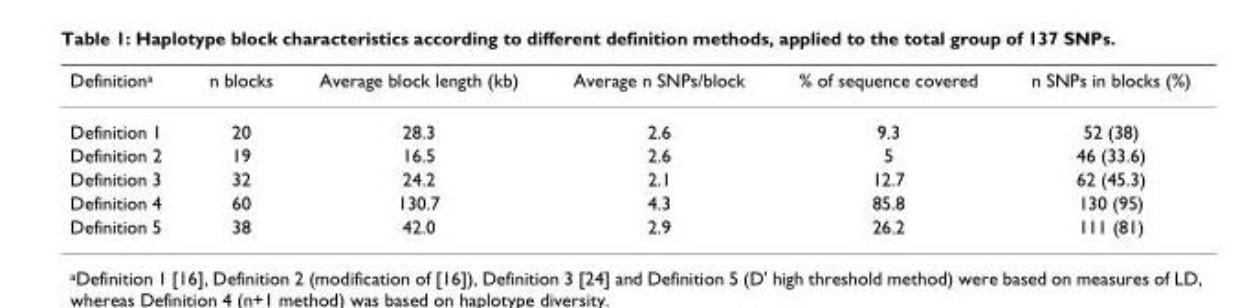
<table><thead><tr><td>Definition<sup>a</sup></td><td>n blocks</td><td>Average block length (kb)</td><td>Average n SNPs/block</td><td>% of sequence covered</td><td>n SNPs in blocks (%)</td></tr></thead><tbody><tr><td>Definition 1</td><td>20</td><td>28.3</td><td>2.6</td><td>9.3</td><td>52 (38)</td></tr><tr><td>Definition 2</td><td>19</td><td>16.5</td><td>2.6</td><td>5</td><td>46 (33.6)</td></tr><tr><td>Definition 3</td><td>32</td><td>24.2</td><td>2.1</td><td>12.7</td><td>62 (45.3)</td></tr><tr><td>Definition 4</td><td>60</td><td>130.7</td><td>4.3</td><td>85.8</td><td>130 (95)</td></tr><tr><td>Definition 5</td><td>38</td><td>42.0</td><td>2.9</td><td>26.2</td><td>111 (81)</td></tr></tbody></table>